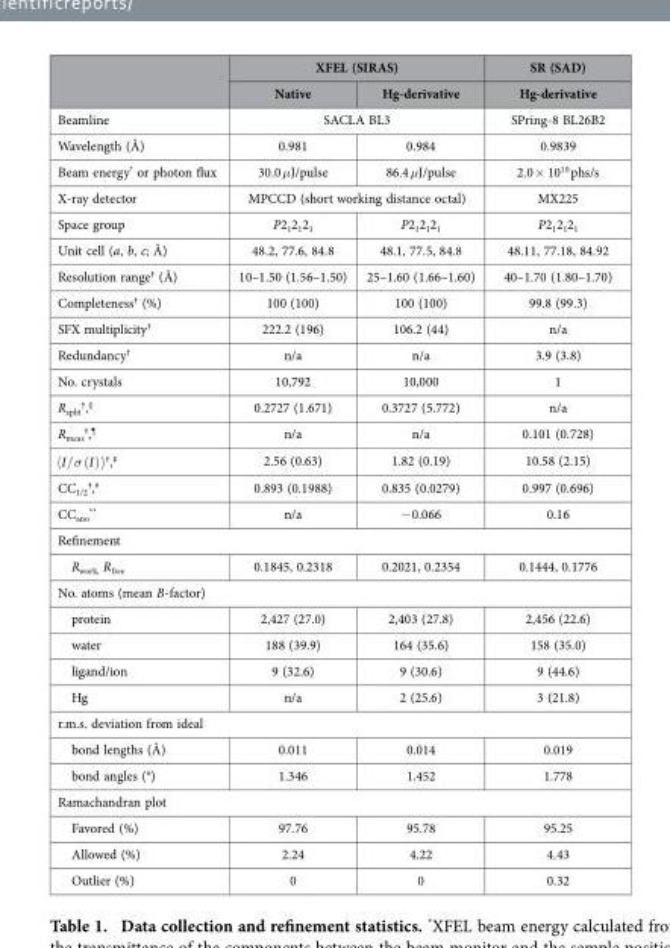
<table><thead><tr><td rowspan="2"></td><td colspan="2">XFEL (SIRAS)</td><td rowspan="2">SR (SAD) Hg-derivative</td></tr><tr><td>Native</td><td>Hg-derivative</td></tr></thead><tbody><tr><td>Beamline</td><td colspan="2">SACLA BL3</td><td>SPring-8 BL26B2</td></tr><tr><td>Wavelength (Å)</td><td>0.981</td><td>0.984</td><td>0.9839</td></tr><tr><td>Beam energy* or photon flux</td><td>30.0 μJ/pulse</td><td>86.4 μJ/pulse</td><td>2.0 × 10<sup>10</sup> phs/s</td></tr><tr><td>X-ray detector</td><td colspan="2">MPCCD (short working distance octal)</td><td>MX225</td></tr><tr><td>Space group</td><td>P2<sub>1</sub>2<sub>1</sub>2<sub>1</sub></td><td>P2<sub>1</sub>2<sub>1</sub>2<sub>1</sub></td><td>P2<sub>1</sub>2<sub>1</sub>2<sub>1</sub></td></tr><tr><td>Unit cell (a, b, c; Å)</td><td>48.2, 77.6, 84.8</td><td>48.1, 77.5, 84.8</td><td>48.11, 77.18, 84.92</td></tr><tr><td>Resolution range† (Å)</td><td>10–1.50 (1.56–1.50)</td><td>25–1.60 (1.66–1.60)</td><td>40–1.70 (1.80–1.70)</td></tr><tr><td>Completeness† (%)</td><td>100 (100)</td><td>100 (100)</td><td>99.8 (99.3)</td></tr><tr><td>SFX multiplicity†</td><td>222.2 (196)</td><td>106.2 (44)</td><td>n/a</td></tr><tr><td>Redundancy†</td><td>n/a</td><td>n/a</td><td>3.9 (3.8)</td></tr><tr><td>No. crystals</td><td>10,792</td><td>10,000</td><td>1</td></tr><tr><td>R<sub>split</sub> †,§</td><td>0.2727 (1.671)</td><td>0.3727 (5.772)</td><td>n/a</td></tr><tr><td>R<sub>meas</sub> †,¶</td><td>n/a</td><td>n/a</td><td>0.101 (0.728)</td></tr><tr><td>σ / ( ) I I †,‡</td><td>2.56 (0.63)</td><td>1.82 (0.19)</td><td>10.58 (2.15)</td></tr><tr><td>CC<sub>1/2</sub> †,#</td><td>0.893 (0.1988)</td><td>0.835 (0.0279)</td><td>0.997 (0.696)</td></tr><tr><td>CC<sub>ano</sub> **</td><td>n/a</td><td>− 0.066</td><td>0.16</td></tr><tr><td colspan="4">Refinement</td></tr><tr><td>R<sub>work,</sub> R<sub>free</sub></td><td>0.1845, 0.2318</td><td>0.2021, 0.2354</td><td>0.1444, 0.1776</td></tr><tr><td colspan="4">No. atoms (mean B-factor)</td></tr><tr><td>protein</td><td>2,427 (27.0)</td><td>2,403 (27.8)</td><td>2,456 (22.6)</td></tr><tr><td>water</td><td>188 (39.9)</td><td>164 (35.6)</td><td>158 (35.0)</td></tr><tr><td>ligand/ion</td><td>9 (32.6)</td><td>9 (30.6)</td><td>9 (44.6)</td></tr><tr><td>Hg</td><td>n/a</td><td>2 (25.6)</td><td>3 (21.8)</td></tr><tr><td colspan="4">r.m.s. deviation from ideal</td></tr><tr><td>bond lengths (Å)</td><td>0.011</td><td>0.014</td><td>0.019</td></tr><tr><td>bond angles (°)</td><td>1.346</td><td>1.452</td><td>1.778</td></tr><tr><td colspan="4">Ramachandran plot</td></tr><tr><td>Favored (%)</td><td>97.76</td><td>95.78</td><td>95.25</td></tr><tr><td>Allowed (%)</td><td>2.24</td><td>4.22</td><td>4.43</td></tr><tr><td>Outlier (%)</td><td>0</td><td>0</td><td>0.32</td></tr></tbody></table>